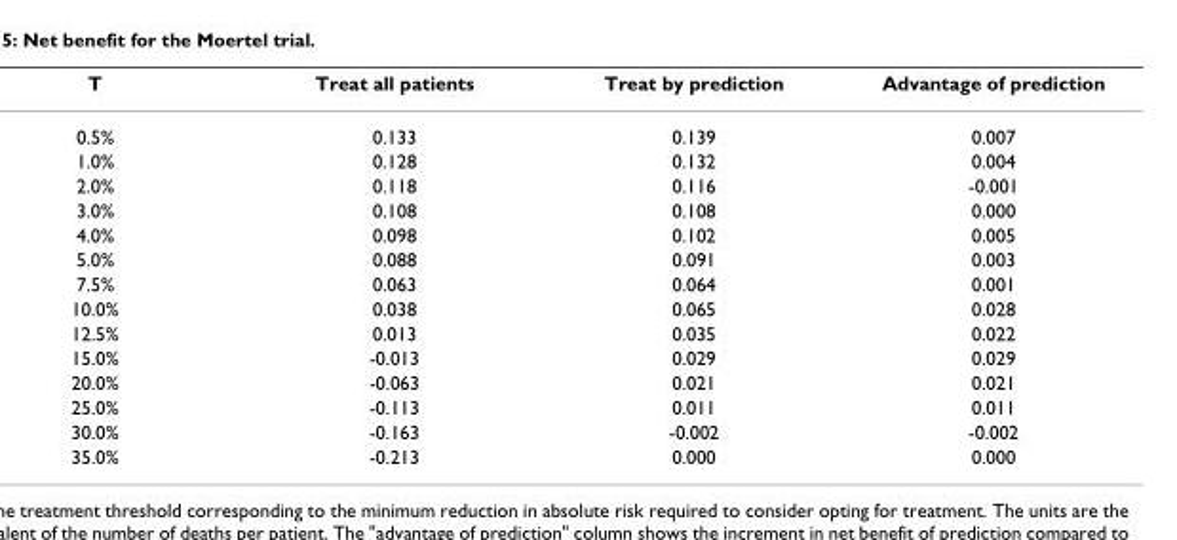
<table><thead><tr><td>T</td><td>Treat all patients</td><td>Treat by prediction</td><td>Advantage of prediction</td></tr></thead><tbody><tr><td>0.5%</td><td>0.133</td><td>0.139</td><td>0.007</td></tr><tr><td>1.0%</td><td>0.128</td><td>0.132</td><td>0.004</td></tr><tr><td>2.0%</td><td>0.118</td><td>0.116</td><td>-0.001</td></tr><tr><td>3.0%</td><td>0.108</td><td>0.108</td><td>0.000</td></tr><tr><td>4.0%</td><td>0.098</td><td>0.102</td><td>0.005</td></tr><tr><td>5.0%</td><td>0.088</td><td>0.091</td><td>0.003</td></tr><tr><td>7.5%</td><td>0.063</td><td>0.064</td><td>0.001</td></tr><tr><td>10.0%</td><td>0.038</td><td>0.065</td><td>0.028</td></tr><tr><td>12.5%</td><td>0.013</td><td>0.035</td><td>0.022</td></tr><tr><td>15.0%</td><td>-0.013</td><td>0.029</td><td>0.029</td></tr><tr><td>20.0%</td><td>-0.063</td><td>0.021</td><td>0.021</td></tr><tr><td>25.0%</td><td>-0.113</td><td>0.011</td><td>0.011</td></tr><tr><td>30.0%</td><td>-0.163</td><td>-0.002</td><td>-0.002</td></tr><tr><td>35.0%</td><td>-0.213</td><td>0.000</td><td>0.000</td></tr></tbody></table>